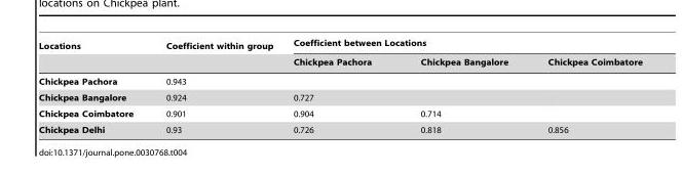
<table><thead><tr><td rowspan="2">Locations</td><td rowspan="2">Coefficient within group</td><td colspan="3">Coefficient between Locations</td></tr><tr><td>Chickpea Pachora</td><td>Chickpea Bangalore</td><td>Chickpea Coimbatore</td></tr></thead><tbody><tr><td>Chickpea Pachora</td><td>0.943</td><td></td><td></td><td></td></tr><tr><td>Chickpea Bangalore</td><td>0.924</td><td>0.727</td><td></td><td></td></tr><tr><td>Chickpea Coimbatore</td><td>0.901</td><td>0.904</td><td>0.714</td><td></td></tr><tr><td>Chickpea Delhi</td><td>0.93</td><td>0.726</td><td>0.818</td><td>0.856</td></tr></tbody></table>